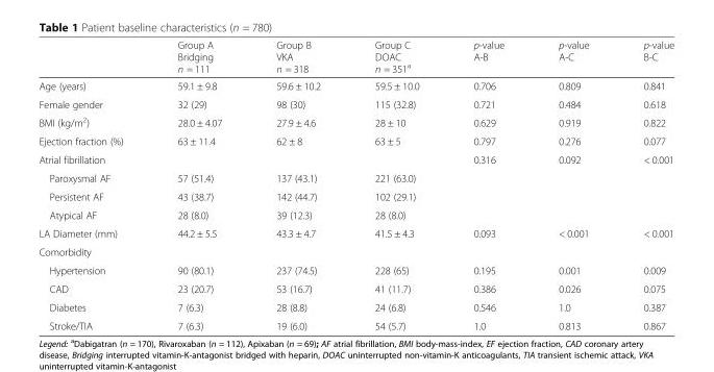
<table><thead><tr><td></td><td>Group A Bridging n = 111</td><td>Group B VKA n = 318</td><td>Group C DOAC n = 351<sup>a</sup></td><td>p-value A-B</td><td>p-value A-C</td><td>p-value B-C</td></tr></thead><tbody><tr><td>Age (years)</td><td>59.1 ± 9.8</td><td>59.6 ± 10.2</td><td>59.5 ± 10.0</td><td>0.706</td><td>0.809</td><td>0.841</td></tr><tr><td>Female gender</td><td>32 (29)</td><td>98 (30)</td><td>115 (32.8)</td><td>0.721</td><td>0.484</td><td>0.618</td></tr><tr><td>BMI (kg/m<sup>2</sup>)</td><td>28.0 ± 4.07</td><td>27.9 ± 4.6</td><td>28 ± 10</td><td>0.629</td><td>0.919</td><td>0.822</td></tr><tr><td>Ejection fraction (%)</td><td>63 ± 11.4</td><td>62 ± 8</td><td>63 ± 5</td><td>0.797</td><td>0.276</td><td>0.077</td></tr><tr><td>Atrial fibrillation</td><td></td><td></td><td></td><td>0.316</td><td>0.092</td><td>&lt; 0.001</td></tr><tr><td>Paroxysmal AF</td><td>57 (51.4)</td><td>137 (43.1)</td><td>221 (63.0)</td><td></td><td></td><td></td></tr><tr><td>Persistent AF</td><td>43 (38.7)</td><td>142 (44.7)</td><td>102 (29.1)</td><td></td><td></td><td></td></tr><tr><td>Atypical AF</td><td>28 (8.0)</td><td>39 (12.3)</td><td>28 (8.0)</td><td></td><td></td><td></td></tr><tr><td>LA Diameter (mm)</td><td>44.2 ± 5.5</td><td>43.3 ± 4.7</td><td>41.5 ± 4.3</td><td>0.093</td><td>&lt; 0.001</td><td>&lt; 0.001</td></tr><tr><td colspan="7">Comorbidity</td></tr><tr><td>Hypertension</td><td>90 (80.1)</td><td>237 (74.5)</td><td>228 (65)</td><td>0.195</td><td>0.001</td><td>0.009</td></tr><tr><td>CAD</td><td>23 (20.7)</td><td>53 (16.7)</td><td>41 (11.7)</td><td>0.386</td><td>0.026</td><td>0.075</td></tr><tr><td>Diabetes</td><td>7 (6.3)</td><td>28 (8.8)</td><td>24 (6.8)</td><td>0.546</td><td>1.0</td><td>0.387</td></tr><tr><td>Stroke/TIA</td><td>7 (6.3)</td><td>19 (6.0)</td><td>54 (5.7)</td><td>1.0</td><td>0.813</td><td>0.867</td></tr></tbody></table>